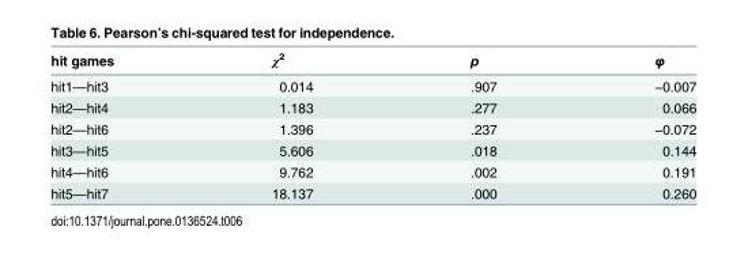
<table><thead><tr><td>hit games</td><td>χ<sup>2</sup></td><td>p</td><td>φ</td></tr></thead><tbody><tr><td>hit1—hit3</td><td>0.014</td><td>.907</td><td>−0.007</td></tr><tr><td>hit2—hit4</td><td>1.183</td><td>.277</td><td>0.066</td></tr><tr><td>hit2—hit6</td><td>1.396</td><td>.237</td><td>−0.072</td></tr><tr><td>hit3—hit5</td><td>5.606</td><td>.018</td><td>0.144</td></tr><tr><td>hit4—hit6</td><td>9.762</td><td>.002</td><td>0.191</td></tr><tr><td>hit5—hit7</td><td>18.137</td><td>.000</td><td>0.260</td></tr></tbody></table>